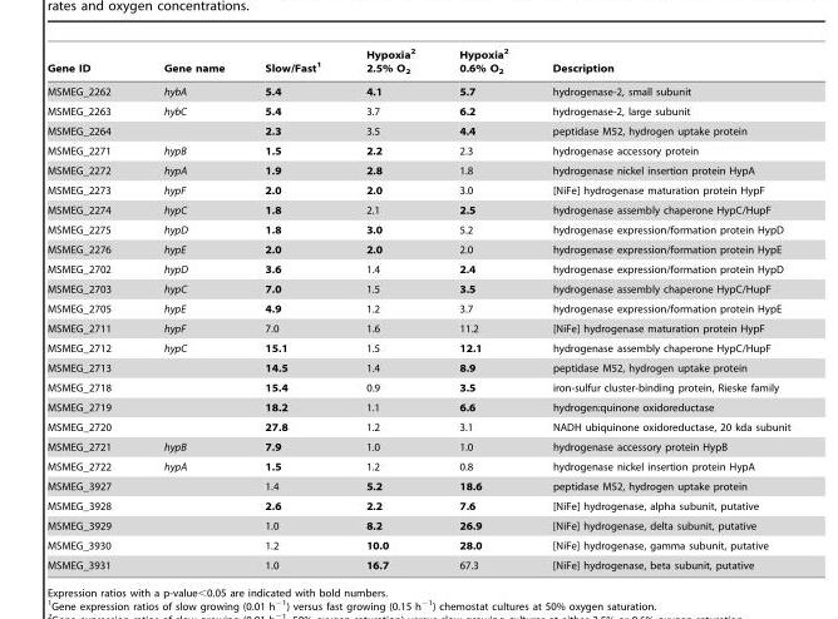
<table><thead><tr><td>Gene ID</td><td>Gene name</td><td>Slow/Fast<sup>1</sup></td><td>Hypoxia<sup>2</sup> 2.5% O<sub>2</sub></td><td>Hypoxia<sup>2</sup> 0.6% O<sub>2</sub></td><td>Description</td></tr></thead><tbody><tr><td>MSMEG_2262</td><td>hybA</td><td>5.4</td><td>4.1</td><td>5.7</td><td>hydrogenase-2, small subunit</td></tr><tr><td>MSMEG_2263</td><td>hybC</td><td>5.4</td><td>3.7</td><td>6.2</td><td>hydrogenase-2, large subunit</td></tr><tr><td>MSMEG_2264</td><td></td><td>2.3</td><td>3.5</td><td>4.4</td><td>peptidase M52, hydrogen uptake protein</td></tr><tr><td>MSMEG_2271</td><td>hypB</td><td>1.5</td><td>2.2</td><td>2.3</td><td>hydrogenase accessory protein</td></tr><tr><td>MSMEG_2272</td><td>hypA</td><td>1.9</td><td>2.8</td><td>1.8</td><td>hydrogenase nickel insertion protein HypA</td></tr><tr><td>MSMEG_2273</td><td>hypF</td><td>2.0</td><td>2.0</td><td>3.0</td><td>[NiFe] hydrogenase maturation protein HypF</td></tr><tr><td>MSMEG_2274</td><td>hypC</td><td>1.8</td><td>2.1</td><td>2.5</td><td>hydrogenase assembly chaperone HypC/HupF</td></tr><tr><td>MSMEG_2275</td><td>hypD</td><td>1.8</td><td>3.0</td><td>5.2</td><td>hydrogenase expression/formation protein HypD</td></tr><tr><td>MSMEG_2276</td><td>hypE</td><td>2.0</td><td>2.0</td><td>2.0</td><td>hydrogenase expression/formation protein HypE</td></tr><tr><td>MSMEG_2702</td><td>hypD</td><td>3.6</td><td>1.4</td><td>2.4</td><td>hydrogenase expression/formation protein HypD</td></tr><tr><td>MSMEG_2703</td><td>hypC</td><td>7.0</td><td>1.5</td><td>3.5</td><td>hydrogenase assembly chaperone HypC/HupF</td></tr><tr><td>MSMEG_2705</td><td>hypE</td><td>4.9</td><td>1.2</td><td>3.7</td><td>hydrogenase expression/formation protein HypE</td></tr><tr><td>MSMEG_2711</td><td>hypF</td><td>7.0</td><td>1.6</td><td>11.2</td><td>[NiFe] hydrogenase maturation protein HypF</td></tr><tr><td>MSMEG_2712</td><td>hypC</td><td>15.1</td><td>1.5</td><td>12.1</td><td>hydrogenase assembly chaperone HypC/HupF</td></tr><tr><td>MSMEG_2713</td><td></td><td>14.5</td><td>1.4</td><td>8.9</td><td>peptidase M52, hydrogen uptake protein</td></tr><tr><td>MSMEG_2718</td><td></td><td>15.4</td><td>0.9</td><td>3.5</td><td>iron-sulfur cluster-binding protein, Rieske family</td></tr><tr><td>MSMEG_2719</td><td></td><td>18.2</td><td>1.1</td><td>6.6</td><td>hydrogen:quinone oxidoreductase</td></tr><tr><td>MSMEG_2720</td><td></td><td>27.8</td><td>1.2</td><td>3.1</td><td>NADH ubiquinone oxidoreductase, 20 kda subunit</td></tr><tr><td>MSMEG_2721</td><td>hypB</td><td>7.9</td><td>1.0</td><td>1.0</td><td>hydrogenase accessory protein HypB</td></tr><tr><td>MSMEG_2722</td><td>hypA</td><td>1.5</td><td>1.2</td><td>0.8</td><td>hydrogenase nickel insertion protein HypA</td></tr><tr><td>MSMEG_3927</td><td></td><td>1.4</td><td>5.2</td><td>18.6</td><td>peptidase M52, hydrogen uptake protein</td></tr><tr><td>MSMEG_3928</td><td></td><td>2.6</td><td>2.2</td><td>7.6</td><td>[NiFe] hydrogenase, alpha subunit, putative</td></tr><tr><td>MSMEG_3929</td><td></td><td>1.0</td><td>8.2</td><td>26.9</td><td>[NiFe] hydrogenase, delta subunit, putative</td></tr><tr><td>MSMEG_3930</td><td></td><td>1.2</td><td>10.0</td><td>28.0</td><td>[NiFe] hydrogenase, gamma subunit, putative</td></tr><tr><td>MSMEG_3931</td><td></td><td>1.0</td><td>16.7</td><td>67.3</td><td>[NiFe] hydrogenase, beta subunit, putative</td></tr></tbody></table>